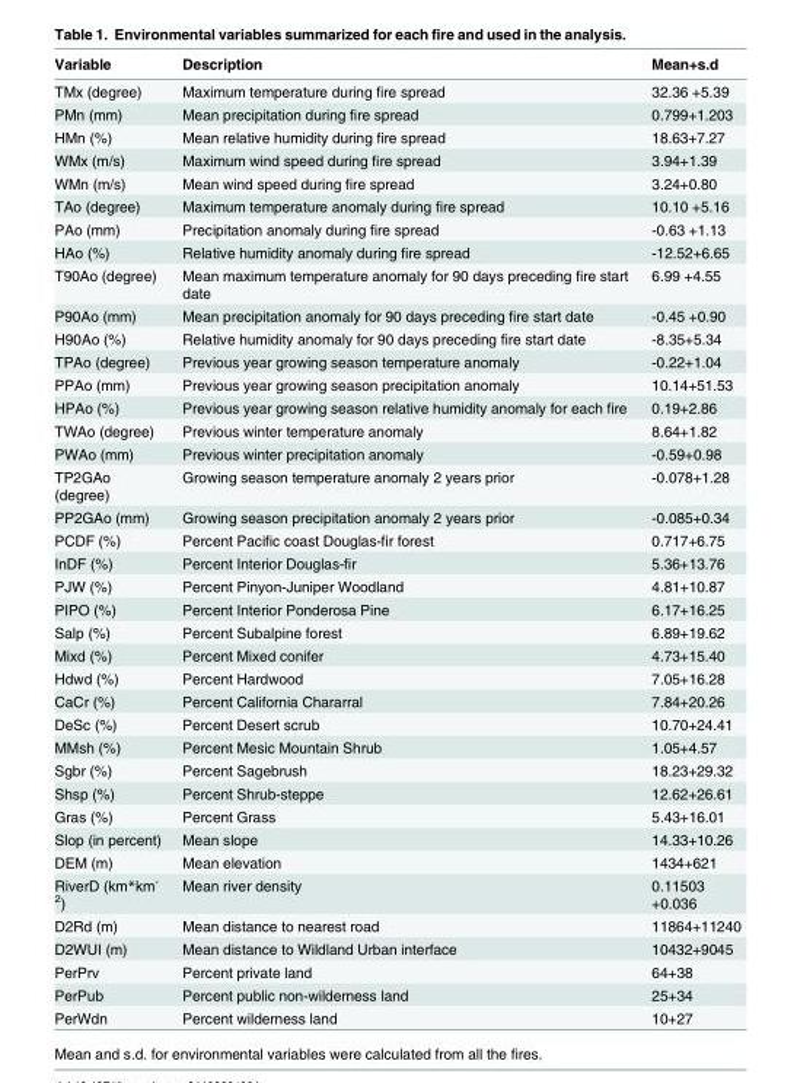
<table><thead><tr><td>Variable</td><td>Description</td><td>Mean+s.d</td></tr></thead><tbody><tr><td>TMx (degree)</td><td>Maximum temperature during fire spread</td><td>32.36 +5.39</td></tr><tr><td>PMn (mm)</td><td>Mean precipitation during fire spread</td><td>0.799+1.203</td></tr><tr><td>HMn (%)</td><td>Mean relative humidity during fire spread</td><td>18.63+7.27</td></tr><tr><td>WMx (m/s)</td><td>Maximum wind speed during fire spread</td><td>3.94+1.39</td></tr><tr><td>WMn (m/s)</td><td>Mean wind speed during fire spread</td><td>3.24+0.80</td></tr><tr><td>TAo (degree)</td><td>Maximum temperature anomaly during fire spread</td><td>10.10 +5.16</td></tr><tr><td>PAo (mm)</td><td>Precipitation anomaly during fire spread</td><td>-0.63 +1.13</td></tr><tr><td>HAo (%)</td><td>Relative humidity anomaly during fire spread</td><td>-12.52+6.65</td></tr><tr><td>T90Ao (degree)</td><td>Mean maximum temperature anomaly for 90 days preceding fire start date</td><td>6.99 +4.55</td></tr><tr><td>P90Ao (mm)</td><td>Mean precipitation anomaly for 90 days preceding fire start date</td><td>-0.45 +0.90</td></tr><tr><td>H90Ao (%)</td><td>Relative humidity anomaly for 90 days preceding fire start date</td><td>-8.35+5.34</td></tr><tr><td>TPAo (degree)</td><td>Previous year growing season temperature anomaly</td><td>-0.22+1.04</td></tr><tr><td>PPAo (mm)</td><td>Previous year growing season precipitation anomaly</td><td>10.14+51.53</td></tr><tr><td>HPAo (%)</td><td>Previous year growing season relative humidity anomaly for each fire</td><td>0.19+2.86</td></tr><tr><td>TWAo (degree)</td><td>Previous winter temperature anomaly</td><td>8.64+1.82</td></tr><tr><td>PWAo (mm)</td><td>Previous winter precipitation anomaly</td><td>-0.59+0.98</td></tr><tr><td>TP2GAo (degree)</td><td>Growing season temperature anomaly 2 years prior</td><td>-0.078+1.28</td></tr><tr><td>PP2GAo (mm)</td><td>Growing season precipitation anomaly 2 years prior</td><td>-0.085+0.34</td></tr><tr><td>PCDF (%)</td><td>Percent Pacific coast Douglas-fir forest</td><td>0.717+6.75</td></tr><tr><td>InDF (%)</td><td>Percent Interior Douglas-fir</td><td>5.36+13.76</td></tr><tr><td>PJW (%)</td><td>Percent Pinyon-Juniper Woodland</td><td>4.81+10.87</td></tr><tr><td>PIPO (%)</td><td>Percent Interior Ponderosa Pine</td><td>6.17+16.25</td></tr><tr><td>Salp (%)</td><td>Percent Subalpine forest</td><td>6.89+19.62</td></tr><tr><td>Mixd (%)</td><td>Percent Mixed conifer</td><td>4.73+15.40</td></tr><tr><td>Hdwd (%)</td><td>Percent Hardwood</td><td>7.05+16.28</td></tr><tr><td>CaCr (%)</td><td>Percent California Chararral</td><td>7.84+20.26</td></tr><tr><td>DeSc (%)</td><td>Percent Desert scrub</td><td>10.70+24.41</td></tr><tr><td>MMsh (%)</td><td>Percent Mesic Mountain Shrub</td><td>1.05+4.57</td></tr><tr><td>Sgbr (%)</td><td>Percent Sagebrush</td><td>18.23+29.32</td></tr><tr><td>Shsp (%)</td><td>Percent Shrub-steppe</td><td>12.62+26.61</td></tr><tr><td>Gras (%)</td><td>Percent Grass</td><td>5.43+16.01</td></tr><tr><td>Slop (in percent)</td><td>Mean slope</td><td>14.33+10.26</td></tr><tr><td>DEM (m)</td><td>Mean elevation</td><td>1434+621</td></tr><tr><td>RiverD (km*km<sup>- 2</sup>)</td><td>Mean river density</td><td>0.11503 +0.036</td></tr><tr><td>D2Rd (m)</td><td>Mean distance to nearest road</td><td>11864+11240</td></tr><tr><td>D2WUI (m)</td><td>Mean distance to Wildland Urban interface</td><td>10432+9045</td></tr><tr><td>PerPrv</td><td>Percent private land</td><td>64+38</td></tr><tr><td>PerPub</td><td>Percent public non-wilderness land</td><td>25+34</td></tr><tr><td>PerWdn</td><td>Percent wilderness land</td><td>10+27</td></tr></tbody></table>